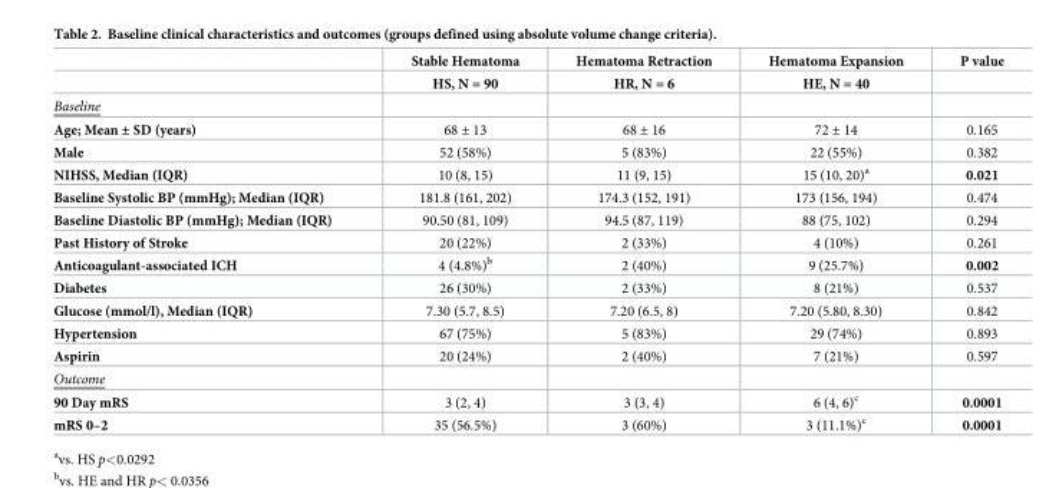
<table><thead><tr><td rowspan="2"></td><td rowspan="2">Stable Hematoma HS, N = 90</td><td rowspan="2">Hematoma Retraction HR, N = 6</td><td rowspan="2">Hematoma Expansion HE, N = 40</td><td rowspan="2">P value</td></tr><tr></tr></thead><tbody><tr><td colspan="5">Baseline</td></tr><tr><td>Age; Mean ± SD (years)</td><td>68 ± 13</td><td>68 ± 16</td><td>72 ± 14</td><td>0.165</td></tr><tr><td>Male</td><td>52 (58%)</td><td>5 (83%)</td><td>22 (55%)</td><td>0.382</td></tr><tr><td>NIHSS, Median (IQR)</td><td>10 (8, 15)</td><td>11 (9, 15)</td><td>15 (10, 20)<sup>a</sup></td><td>0.021</td></tr><tr><td>Baseline Systolic BP (mmHg); Median (IQR)</td><td>181.8 (161, 202)</td><td>174.3 (152, 191)</td><td>173 (156, 194)</td><td>0.474</td></tr><tr><td>Baseline Diastolic BP (mmHg); Median (IQR)</td><td>90.50 (81, 109)</td><td>94.5 (87, 119)</td><td>88 (75, 102)</td><td>0.294</td></tr><tr><td>Past History of Stroke</td><td>20 (22%)</td><td>2 (33%)</td><td>4 (10%)</td><td>0.261</td></tr><tr><td>Anticoagulant-associated ICH</td><td>4 (4.8%)<sup>b</sup></td><td>2 (40%)</td><td>9 (25.7%)</td><td>0.002</td></tr><tr><td>Diabetes</td><td>26 (30%)</td><td>2 (33%)</td><td>8 (21%)</td><td>0.537</td></tr><tr><td>Glucose (mmol/l), Median (IQR)</td><td>7.30 (5.7, 8.5)</td><td>7.20 (6.5, 8)</td><td>7.20 (5.80, 8.30)</td><td>0.842</td></tr><tr><td>Hypertension</td><td>67 (75%)</td><td>5 (83%)</td><td>29 (74%)</td><td>0.893</td></tr><tr><td>Aspirin</td><td>20 (24%)</td><td>2 (40%)</td><td>7 (21%)</td><td>0.597</td></tr><tr><td colspan="5">Outcome</td></tr><tr><td>90 Day mRS</td><td>3 (2, 4)</td><td>3 (3, 4)</td><td>6 (4, 6)<sup>c</sup></td><td>0.0001</td></tr><tr><td>mRS 0–2</td><td>35 (56.5%)</td><td>3 (60%)</td><td>3 (11.1%)<sup>c</sup></td><td>0.0001</td></tr></tbody></table>